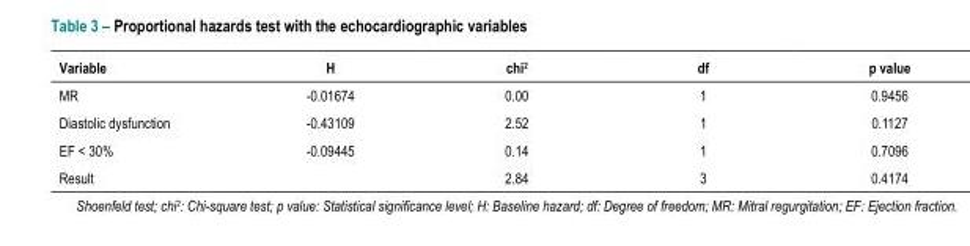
<table><thead><tr><td>Variable</td><td>H</td><td>chi<sup>2</sup></td><td>df</td><td>p value</td></tr></thead><tbody><tr><td>MR</td><td>-0.01674</td><td>0.00</td><td>1</td><td>0.9456</td></tr><tr><td>Diastolic dysfunction</td><td>-0.43109</td><td>2.52</td><td>1</td><td>0.1127</td></tr><tr><td>EF &lt; 30%</td><td>-0.09445</td><td>0.14</td><td>1</td><td>0.7096</td></tr><tr><td>Result</td><td></td><td>2.84</td><td>3</td><td>0.4174</td></tr></tbody></table>